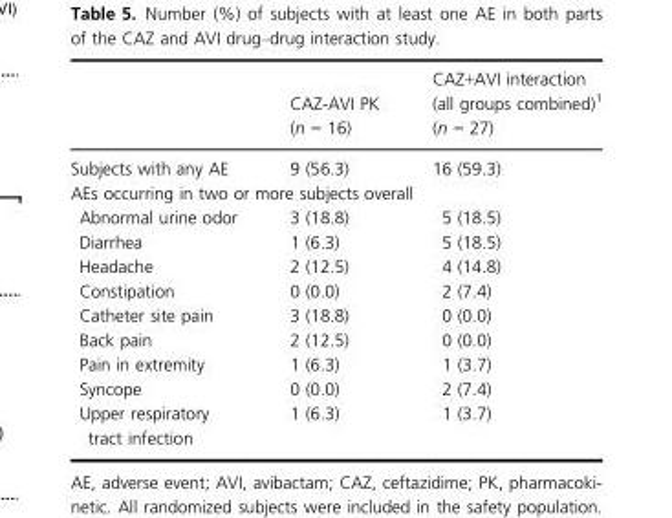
<table><thead><tr><td></td><td>CAZ-AVI PK (n = 16)</td><td>CAZ+AVI interaction (all groups combined)<sup>1</sup> (n = 27)</td></tr></thead><tbody><tr><td>Subjects with any AE</td><td>9 (56.3)</td><td>16 (59.3)</td></tr><tr><td colspan="3">AEs occurring in two or more subjects overall</td></tr><tr><td>Abnormal urine odor</td><td>3 (18.8)</td><td>5 (18.5)</td></tr><tr><td>Diarrhea</td><td>1 (6.3)</td><td>5 (18.5)</td></tr><tr><td>Headache</td><td>2 (12.5)</td><td>4 (14.8)</td></tr><tr><td>Constipation</td><td>0 (0.0)</td><td>2 (7.4)</td></tr><tr><td>Catheter site pain</td><td>3 (18.8)</td><td>0 (0.0)</td></tr><tr><td>Back pain</td><td>2 (12.5)</td><td>0 (0.0)</td></tr><tr><td>Pain in extremity</td><td>1 (6.3)</td><td>1 (3.7)</td></tr><tr><td>Syncope</td><td>0 (0.0)</td><td>2 (7.4)</td></tr><tr><td>Upper respiratory tract infection</td><td>1 (6.3)</td><td>1 (3.7)</td></tr></tbody></table>